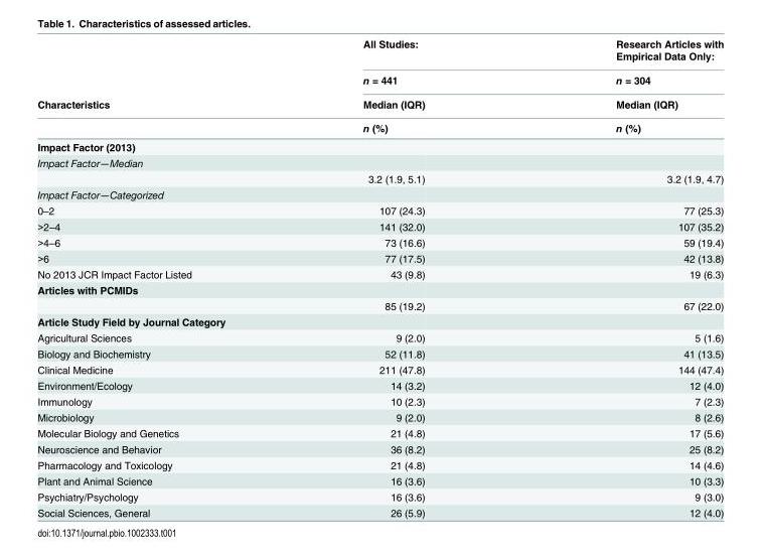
<table><thead><tr><td rowspan="4">Characteristics</td><td rowspan="4">All Studies: n = 441 Median (IQR) n (%)</td><td rowspan="4">Research Articles with Empirical Data Only: n = 304 Median (IQR) n (%)</td></tr><tr></tr><tr></tr><tr></tr></thead><tbody><tr><td colspan="3">Impact Factor (2013)</td></tr><tr><td colspan="3">Impact Factor—Median</td></tr><tr><td></td><td>3.2 (1.9, 5.1)</td><td>3.2 (1.9, 4.7)</td></tr><tr><td colspan="3">Impact Factor—Categorized</td></tr><tr><td>0–2</td><td>107 (24.3)</td><td>77 (25.3)</td></tr><tr><td>&gt;2–4</td><td>141 (32.0)</td><td>107 (35.2)</td></tr><tr><td>&gt;4–6</td><td>73 (16.6)</td><td>59 (19.4)</td></tr><tr><td>&gt;6</td><td>77 (17.5)</td><td>42 (13.8)</td></tr><tr><td>No 2013 JCR Impact Factor Listed</td><td>43 (9.8)</td><td>19 (6.3)</td></tr><tr><td colspan="3">Articles with PCMIDs</td></tr><tr><td></td><td>85 (19.2)</td><td>67 (22.0)</td></tr><tr><td colspan="3">Article Study Field by Journal Category</td></tr><tr><td>Agricultural Sciences</td><td>9 (2.0)</td><td>5 (1.6)</td></tr><tr><td>Biology and Biochemistry</td><td>52 (11.8)</td><td>41 (13.5)</td></tr><tr><td>Clinical Medicine</td><td>211 (47.8)</td><td>144 (47.4)</td></tr><tr><td>Environment/Ecology</td><td>14 (3.2)</td><td>12 (4.0)</td></tr><tr><td>Immunology</td><td>10 (2.3)</td><td>7 (2.3)</td></tr><tr><td>Microbiology</td><td>9 (2.0)</td><td>8 (2.6)</td></tr><tr><td>Molecular Biology and Genetics</td><td>21 (4.8)</td><td>17 (5.6)</td></tr><tr><td>Neuroscience and Behavior</td><td>36 (8.2)</td><td>25 (8.2)</td></tr><tr><td>Pharmacology and Toxicology</td><td>21 (4.8)</td><td>14 (4.6)</td></tr><tr><td>Plant and Animal Science</td><td>16 (3.6)</td><td>10 (3.3)</td></tr><tr><td>Psychiatry/Psychology</td><td>16 (3.6)</td><td>9 (3.0)</td></tr><tr><td>Social Sciences, General</td><td>26 (5.9)</td><td>12 (4.0)</td></tr></tbody></table>